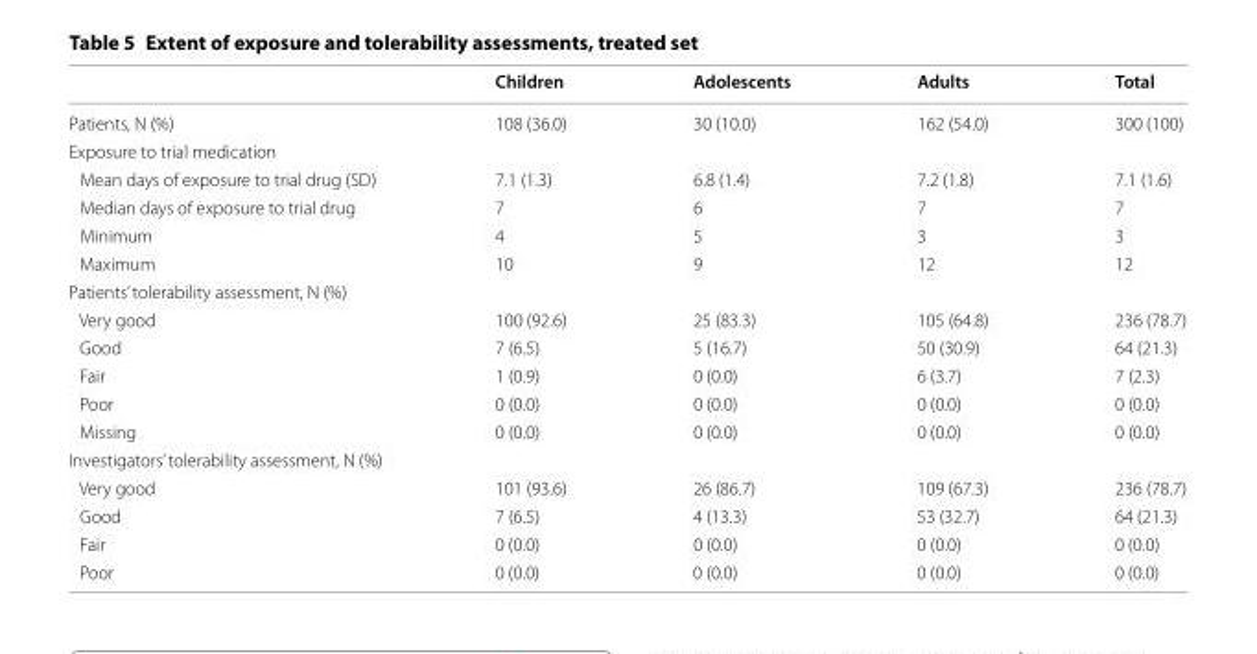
<table><thead><tr><td></td><td>Children</td><td>Adolescents</td><td>Adults</td><td>Total</td></tr></thead><tbody><tr><td>Patients, N (%)</td><td>108 (36.0)</td><td>30 (10.0)</td><td>162 (54.0)</td><td>300 (100)</td></tr><tr><td colspan="5">Exposure to trial medication</td></tr><tr><td>Mean days of exposure to trial drug (SD)</td><td>7.1 (1.3)</td><td>6.8 (1.4)</td><td>7.2 (1.8)</td><td>7.1 (1.6)</td></tr><tr><td>Median days of exposure to trial drug</td><td>7</td><td>6</td><td>7</td><td>7</td></tr><tr><td>Minimum</td><td>4</td><td>5</td><td>3</td><td>3</td></tr><tr><td>Maximum</td><td>10</td><td>9</td><td>12</td><td>12</td></tr><tr><td colspan="5">Patients’ tolerability assessment, N (%)</td></tr><tr><td>Very good</td><td>100 (92.6)</td><td>25 (83.3)</td><td>105 (64.8)</td><td>236 (78.7)</td></tr><tr><td>Good</td><td>7 (6.5)</td><td>5 (16.7)</td><td>50 (30.9)</td><td>64 (21.3)</td></tr><tr><td>Fair</td><td>1 (0.9)</td><td>0 (0.0)</td><td>6 (3.7)</td><td>7 (2.3)</td></tr><tr><td>Poor</td><td>0 (0.0)</td><td>0 (0.0)</td><td>0 (0.0)</td><td>0 (0.0)</td></tr><tr><td>Missing</td><td>0 (0.0)</td><td>0 (0.0)</td><td>0 (0.0)</td><td>0 (0.0)</td></tr><tr><td colspan="5">Investigators’ tolerability assessment, N (%)</td></tr><tr><td>Very good</td><td>101 (93.6)</td><td>26 (86.7)</td><td>109 (67.3)</td><td>236 (78.7)</td></tr><tr><td>Good</td><td>7 (6.5)</td><td>4 (13.3)</td><td>53 (32.7)</td><td>64 (21.3)</td></tr><tr><td>Fair</td><td>0 (0.0)</td><td>0 (0.0)</td><td>0 (0.0)</td><td>0 (0.0)</td></tr><tr><td>Poor</td><td>0 (0.0)</td><td>0 (0.0)</td><td>0 (0.0)</td><td>0 (0.0)</td></tr></tbody></table>